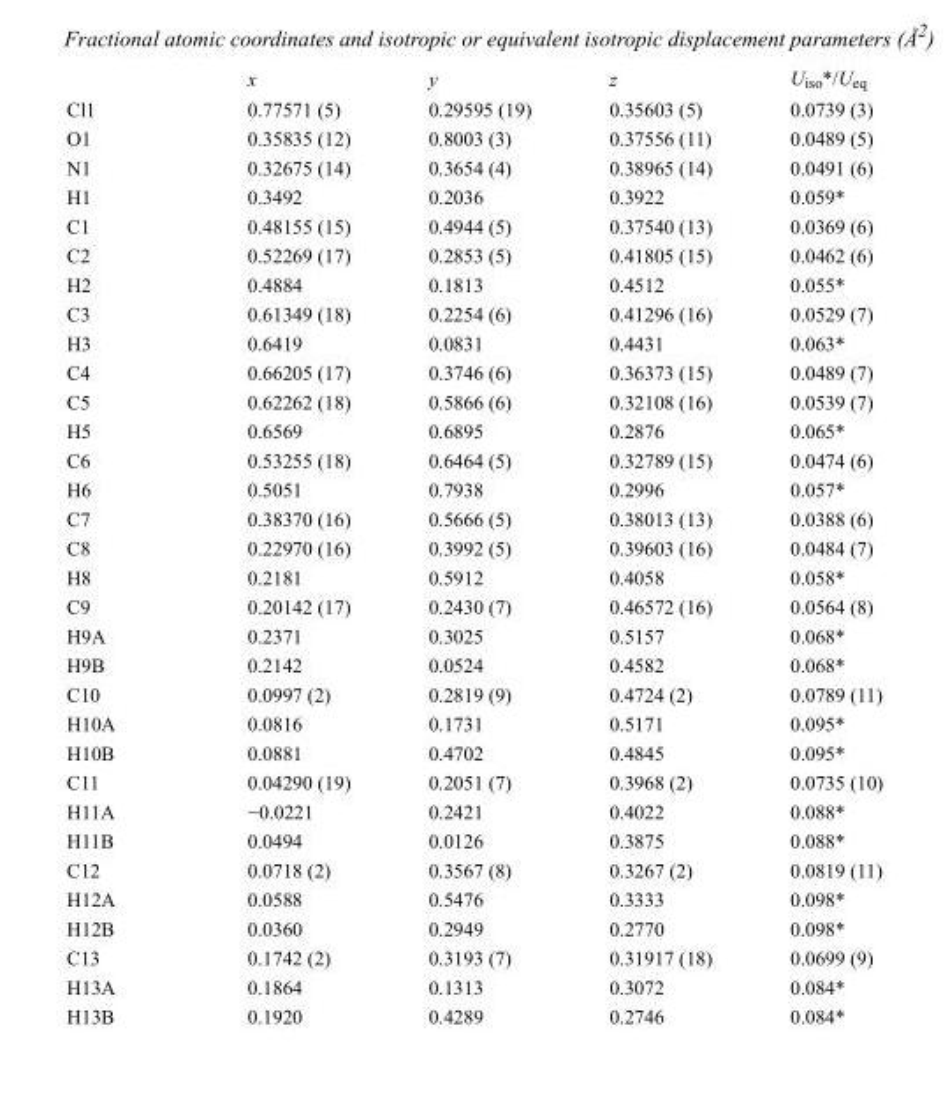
<table><thead><tr><td></td><td>x</td><td>y</td><td>z</td><td>U<sub>iso</sub>*/U<sub>eq</sub></td></tr></thead><tbody><tr><td>Cl1</td><td>0.77571 (5)</td><td>0.29595 (19)</td><td>0.35603 (5)</td><td>0.0739 (3)</td></tr><tr><td>O1</td><td>0.35835 (12)</td><td>0.8003 (3)</td><td>0.37556 (11)</td><td>0.0489 (5)</td></tr><tr><td>N1</td><td>0.32675 (14)</td><td>0.3654 (4)</td><td>0.38965 (14)</td><td>0.0491 (6)</td></tr><tr><td>H1</td><td>0.3492</td><td>0.2036</td><td>0.3922</td><td>0.059*</td></tr><tr><td>C1</td><td>0.48155 (15)</td><td>0.4944 (5)</td><td>0.37540 (13)</td><td>0.0369 (6)</td></tr><tr><td>C2</td><td>0.52269 (17)</td><td>0.2853 (5)</td><td>0.41805 (15)</td><td>0.0462 (6)</td></tr><tr><td>H2</td><td>0.4884</td><td>0.1813</td><td>0.4512</td><td>0.055*</td></tr><tr><td>C3</td><td>0.61349 (18)</td><td>0.2254 (6)</td><td>0.41296 (16)</td><td>0.0529 (7)</td></tr><tr><td>H3</td><td>0.6419</td><td>0.0831</td><td>0.4431</td><td>0.063*</td></tr><tr><td>C4</td><td>0.66205 (17)</td><td>0.3746 (6)</td><td>0.36373 (15)</td><td>0.0489 (7)</td></tr><tr><td>C5</td><td>0.62262 (18)</td><td>0.5866 (6)</td><td>0.32108 (16)</td><td>0.0539 (7)</td></tr><tr><td>H5</td><td>0.6569</td><td>0.6895</td><td>0.2876</td><td>0.065*</td></tr><tr><td>C6</td><td>0.53255 (18)</td><td>0.6464 (5)</td><td>0.32789 (15)</td><td>0.0474 (6)</td></tr><tr><td>H6</td><td>0.5051</td><td>0.7938</td><td>0.2996</td><td>0.057*</td></tr><tr><td>C7</td><td>0.38370 (16)</td><td>0.5666 (5)</td><td>0.38013 (13)</td><td>0.0388 (6)</td></tr><tr><td>C8</td><td>0.22970 (16)</td><td>0.3992 (5)</td><td>0.39603 (16)</td><td>0.0484 (7)</td></tr><tr><td>H8</td><td>0.2181</td><td>0.5912</td><td>0.4058</td><td>0.058*</td></tr><tr><td>C9</td><td>0.20142 (17)</td><td>0.2430 (7)</td><td>0.46572 (16)</td><td>0.0564 (8)</td></tr><tr><td>H9A</td><td>0.2371</td><td>0.3025</td><td>0.5157</td><td>0.068*</td></tr><tr><td>H9B</td><td>0.2142</td><td>0.0524</td><td>0.4582</td><td>0.068*</td></tr><tr><td>C10</td><td>0.0997 (2)</td><td>0.2819 (9)</td><td>0.4724 (2)</td><td>0.0789 (11)</td></tr><tr><td>H10A</td><td>0.0816</td><td>0.1731</td><td>0.5171</td><td>0.095*</td></tr><tr><td>H10B</td><td>0.0881</td><td>0.4702</td><td>0.4845</td><td>0.095*</td></tr><tr><td>C11</td><td>0.04290 (19)</td><td>0.2051 (7)</td><td>0.3968 (2)</td><td>0.0735 (10)</td></tr><tr><td>H11A</td><td>−0.0221</td><td>0.2421</td><td>0.4022</td><td>0.088*</td></tr><tr><td>H11B</td><td>0.0494</td><td>0.0126</td><td>0.3875</td><td>0.088*</td></tr><tr><td>C12</td><td>0.0718 (2)</td><td>0.3567 (8)</td><td>0.3267 (2)</td><td>0.0819 (11)</td></tr><tr><td>H12A</td><td>0.0588</td><td>0.5476</td><td>0.3333</td><td>0.098*</td></tr><tr><td>H12B</td><td>0.0360</td><td>0.2949</td><td>0.2770</td><td>0.098*</td></tr><tr><td>C13</td><td>0.1742 (2)</td><td>0.3193 (7)</td><td>0.31917 (18)</td><td>0.0699 (9)</td></tr><tr><td>H13A</td><td>0.1864</td><td>0.1313</td><td>0.3072</td><td>0.084*</td></tr><tr><td>H13B</td><td>0.1920</td><td>0.4289</td><td>0.2746</td><td>0.084*</td></tr></tbody></table>